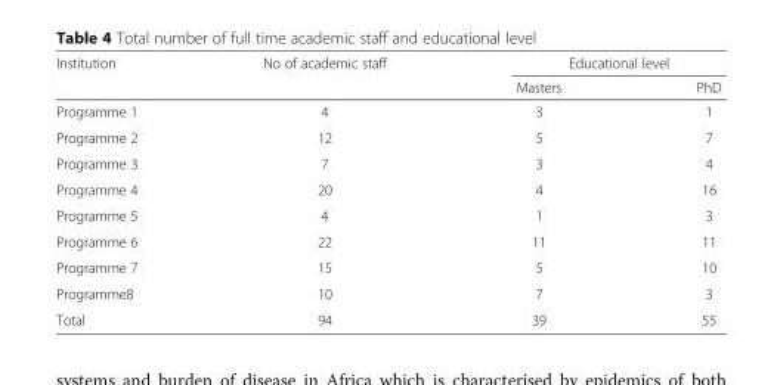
<table><thead><tr><td rowspan="2">Institution</td><td rowspan="2">No of academic staff</td><td colspan="2">Educational level</td></tr><tr><td>Masters</td><td>PhD</td></tr></thead><tbody><tr><td>Programme 1</td><td>4</td><td>3</td><td>1</td></tr><tr><td>Programme 2</td><td>12</td><td>5</td><td>7</td></tr><tr><td>Programme 3</td><td>7</td><td>3</td><td>4</td></tr><tr><td>Programme 4</td><td>20</td><td>4</td><td>16</td></tr><tr><td>Programme 5</td><td>4</td><td>1</td><td>3</td></tr><tr><td>Programme 6</td><td>22</td><td>11</td><td>11</td></tr><tr><td>Programme 7</td><td>15</td><td>5</td><td>10</td></tr><tr><td>Programme8</td><td>10</td><td>7</td><td>3</td></tr><tr><td>Total</td><td>94</td><td>39</td><td>55</td></tr></tbody></table>